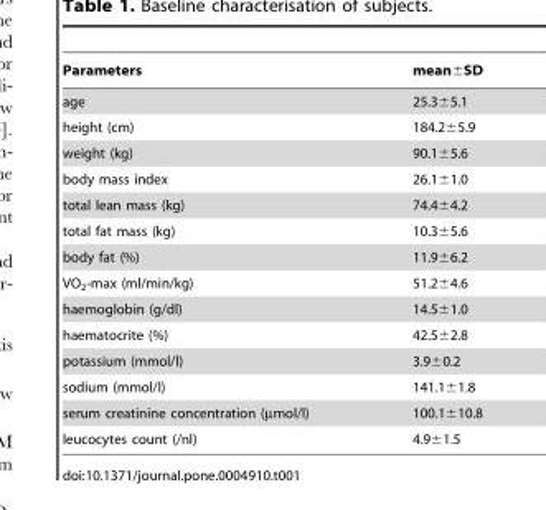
<table><thead><tr><td>Parameters</td><td>mean±SD</td></tr></thead><tbody><tr><td>age</td><td>25.3±5.1</td></tr><tr><td>height (cm)</td><td>184.2±5.9</td></tr><tr><td>weight (kg)</td><td>90.1±5.6</td></tr><tr><td>body mass index</td><td>26.1±1.0</td></tr><tr><td>total lean mass (kg)</td><td>74.4±4.2</td></tr><tr><td>total fat mass (kg)</td><td>10.3±5.6</td></tr><tr><td>body fat (%)</td><td>11.9±6.2</td></tr><tr><td>VO<sub>2</sub>-max (ml/min/kg)</td><td>51.2±4.6</td></tr><tr><td>haemoglobin (g/dl)</td><td>14.5±1.0</td></tr><tr><td>haematocrite (%)</td><td>42.5±2.8</td></tr><tr><td>potassium (mmol/l)</td><td>3.9±0.2</td></tr><tr><td>sodium (mmol/l)</td><td>141.1±1.8</td></tr><tr><td>serum creatinine concentration (µmol/l)</td><td>100.1±10.8</td></tr><tr><td>leucocytes count (/nl)</td><td>4.9±1.5</td></tr></tbody></table>